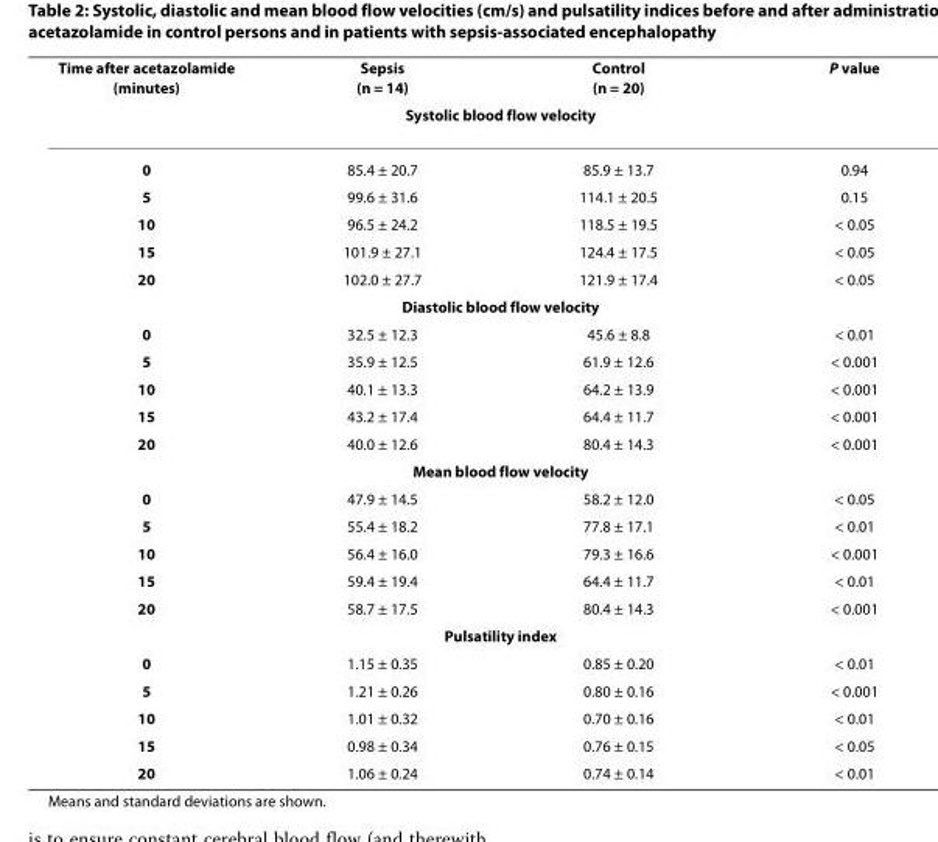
<table><thead><tr><td>Time after acetazolamide (minutes)</td><td>Sepsis (n = 14)</td><td>Control (n = 20)</td><td>P value</td></tr><tr><td colspan="4">Systolic blood flow velocity</td></tr></thead><tbody><tr><td>0</td><td>85.4 ± 20.7</td><td>85.9 ± 13.7</td><td>0.94</td></tr><tr><td>5</td><td>99.6 ± 31.6</td><td>114.1 ± 20.5</td><td>0.15</td></tr><tr><td>10</td><td>96.5 ± 24.2</td><td>118.5 ± 19.5</td><td>&lt; 0.05</td></tr><tr><td>15</td><td>101.9 ± 27.1</td><td>124.4 ± 17.5</td><td>&lt; 0.05</td></tr><tr><td>20</td><td>102.0 ± 27.7</td><td>121.9 ± 17.4</td><td>&lt; 0.05</td></tr><tr><td colspan="4">Diastolic blood flow velocity</td></tr><tr><td>0</td><td>32.5 ± 12.3</td><td>45.6 ± 8.8</td><td>&lt; 0.01</td></tr><tr><td>5</td><td>35.9 ± 12.5</td><td>61.9 ± 12.6</td><td>&lt; 0.001</td></tr><tr><td>10</td><td>40.1 ± 13.3</td><td>64.2 ± 13.9</td><td>&lt; 0.001</td></tr><tr><td>15</td><td>43.2 ± 17.4</td><td>64.4 ± 11.7</td><td>&lt; 0.001</td></tr><tr><td>20</td><td>40.0 ± 12.6</td><td>80.4 ± 14.3</td><td>&lt; 0.001</td></tr><tr><td colspan="4">Mean blood flow velocity</td></tr><tr><td>0</td><td>47.9 ± 14.5</td><td>58.2 ± 12.0</td><td>&lt; 0.05</td></tr><tr><td>5</td><td>55.4 ± 18.2</td><td>77.8 ± 17.1</td><td>&lt; 0.01</td></tr><tr><td>10</td><td>56.4 ± 16.0</td><td>79.3 ± 16.6</td><td>&lt; 0.001</td></tr><tr><td>15</td><td>59.4 ± 19.4</td><td>64.4 ± 11.7</td><td>&lt; 0.01</td></tr><tr><td>20</td><td>58.7 ± 17.5</td><td>80.4 ± 14.3</td><td>&lt; 0.001</td></tr><tr><td colspan="4">Pulsatility index</td></tr><tr><td>0</td><td>1.15 ± 0.35</td><td>0.85 ± 0.20</td><td>&lt; 0.01</td></tr><tr><td>5</td><td>1.21 ± 0.26</td><td>0.80 ± 0.16</td><td>&lt; 0.001</td></tr><tr><td>10</td><td>1.01 ± 0.32</td><td>0.70 ± 0.16</td><td>&lt; 0.01</td></tr><tr><td>15</td><td>0.98 ± 0.34</td><td>0.76 ± 0.15</td><td>&lt; 0.05</td></tr><tr><td>20</td><td>1.06 ± 0.24</td><td>0.74 ± 0.14</td><td>&lt; 0.01</td></tr></tbody></table>